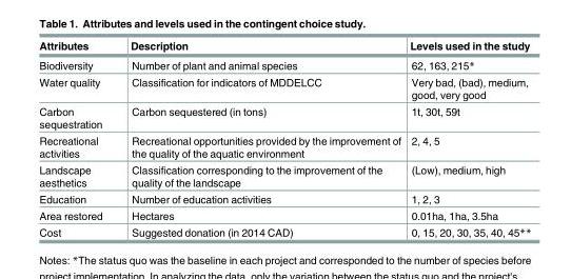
<table><thead><tr><td>Attributes</td><td>Description</td><td>Levels used in the study</td></tr></thead><tbody><tr><td>Biodiversity</td><td>Number of plant and animal species</td><td>62, 163, 215*</td></tr><tr><td>Water quality</td><td>Classification for indicators of MDDELCC</td><td>Very bad, (bad), medium, good, very good</td></tr><tr><td>Carbon sequestration</td><td>Carbon sequestered (in tons)</td><td>1t, 30t, 59t</td></tr><tr><td>Recreational activities</td><td>Recreational opportunities provided by the improvement of the quality of the aquatic environment</td><td>2, 4, 5</td></tr><tr><td>Landscape aesthetics</td><td>Classification corresponding to the improvement of the quality of the landscape</td><td>(Low), medium, high</td></tr><tr><td>Education</td><td>Number of education activities</td><td>1, 2, 3</td></tr><tr><td>Area restored</td><td>Hectares</td><td>0.01ha, 1ha, 3.5ha</td></tr><tr><td>Cost</td><td>Suggested donation (in 2014 CAD)</td><td>0, 15, 20, 30, 35, 40, 45**</td></tr></tbody></table>